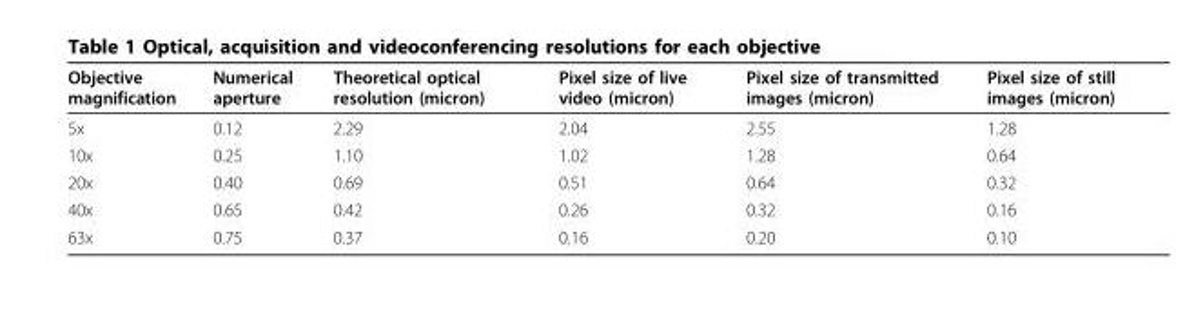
<table><thead><tr><td>Objective magnification</td><td>Numerical aperture</td><td>Theoretical optical resolution (micron)</td><td>Pixel size of live video (micron)</td><td>Pixel size of transmitted images (micron)</td><td>Pixel size of still images (micron)</td></tr></thead><tbody><tr><td>5x</td><td>0.12</td><td>2.29</td><td>2.04</td><td>2.55</td><td>1.28</td></tr><tr><td>10x</td><td>0.25</td><td>1.10</td><td>1.02</td><td>1.28</td><td>0.64</td></tr><tr><td>20x</td><td>0.40</td><td>0.69</td><td>0.51</td><td>0.64</td><td>0.32</td></tr><tr><td>40x</td><td>0.65</td><td>0.42</td><td>0.26</td><td>0.32</td><td>0.16</td></tr><tr><td>63x</td><td>0.75</td><td>0.37</td><td>0.16</td><td>0.20</td><td>0.10</td></tr></tbody></table>